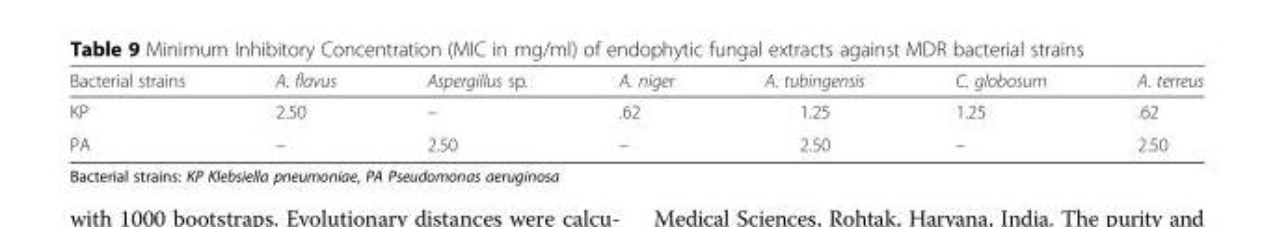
<table><thead><tr><td>Bacterial strains</td><td>A. flavus</td><td>Aspergillus sp.</td><td>A. niger</td><td>A. tubingensis</td><td>C. globosum</td><td>A. terreus</td></tr></thead><tbody><tr><td>KP</td><td>2.50</td><td>–</td><td>.62</td><td>1.25</td><td>1.25</td><td>.62</td></tr><tr><td>PA</td><td>–</td><td>2.50</td><td>–</td><td>2.50</td><td>–</td><td>2.50</td></tr></tbody></table>